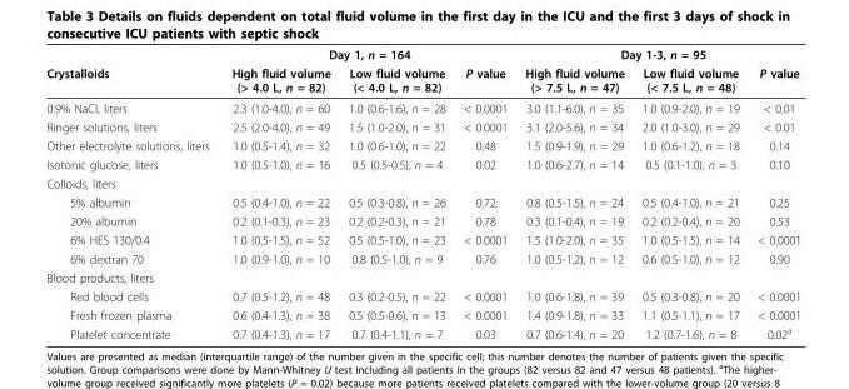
<table><thead><tr><td rowspan="2">Crystalloids</td><td colspan="3">Day 1, n = 164</td><td colspan="3">Day 1-3, n = 95</td></tr><tr><td>High fluid volume (&gt; 4.0 L, n = 82)</td><td>Low fluid volume (&lt; 4.0 L, n = 82)</td><td>P value</td><td>High fluid volume (&gt; 7.5 L, n = 47)</td><td>Low fluid volume (&lt; 7.5 L, n = 48)</td><td>P value</td></tr></thead><tbody><tr><td>0.9% NaCl, liters</td><td>2.3 (1.0-4.0), n = 60</td><td>1.0 (0.6-1.6), n = 28</td><td>&lt; 0.0001</td><td>3.0 (1.1-6.0), n = 35</td><td>1.0 (0.9-2.0), n = 19</td><td>&lt; 0.01</td></tr><tr><td>Ringer solutions, liters</td><td>2.5 (2.0-4.0), n = 49</td><td>1.5 (1.0-2.0), n = 31</td><td>&lt; 0.0001</td><td>3.1 (2.0-5.6), n = 34</td><td>2.0 (1.0-3.0), n = 29</td><td>&lt; 0.01</td></tr><tr><td>Other electrolyte solutions, liters</td><td>1.0 (0.5-1.4), n = 32</td><td>1.0 (0.6-1.0), n = 22</td><td>0.48</td><td>1.5 (0.9-1.9), n = 29</td><td>1.0 (0.6-1.2), n = 18</td><td>0.14</td></tr><tr><td>Isotonic glucose, liters</td><td>1.0 (0.5-1.0), n = 16</td><td>0.5 (0.5-0.5), n = 4</td><td>0.02</td><td>1.0 (0.6-2.7), n = 14</td><td>0.5 (0.1-1.0), n = 3</td><td>0.10</td></tr><tr><td colspan="7">Colloids, liters</td></tr><tr><td>5% albumin</td><td>0.5 (0.4-1.0), n = 22</td><td>0.5 (0.3-0.8), n = 26</td><td>0.72</td><td>0.8 (0.5-1.5), n = 24</td><td>0.5 (0.4-1.0), n = 21</td><td>0.25</td></tr><tr><td>20% albumin</td><td>0.2 (0.1-0.3), n = 23</td><td>0.2 (0.2-0.3), n = 21</td><td>0.78</td><td>0.3 (0.1-0.4), n = 19</td><td>0.2 (0.2-0.4), n = 20</td><td>0.53</td></tr><tr><td>6% HES 130/0.4</td><td>1.0 (0.5-1.5), n = 52</td><td>0.5 (0.5-1.0), n = 23</td><td>&lt; 0.0001</td><td>1.5 (1.0-2.0), n = 35</td><td>1.0 (0.5-1.5), n = 14</td><td>&lt; 0.0001</td></tr><tr><td>6% dextran 70</td><td>1.0 (0.9-1.0), n = 10</td><td>0.8 (0.5-1.0), n = 9</td><td>0.76</td><td>1.0 (0.5-1.2), n = 12</td><td>0.6 (0.5-1.0), n = 12</td><td>0.90</td></tr><tr><td colspan="7">Blood products, liters</td></tr><tr><td>Red blood cells</td><td>0.7 (0.5-1.2), n = 48</td><td>0.3 (0.2-0.5), n = 22</td><td>&lt; 0.0001</td><td>1.0 (0.6-1.8), n = 39</td><td>0.5 (0.3-0.8), n = 20</td><td>&lt; 0.0001</td></tr><tr><td>Fresh frozen plasma</td><td>0.6 (0.4-1.3), n = 38</td><td>0.5 (0.5-0.6), n = 13</td><td>&lt; 0.0001</td><td>1.4 (0.9-1.8), n = 33</td><td>1.1 (0.5-1.1), n = 17</td><td>&lt; 0.0001</td></tr><tr><td>Platelet concentrate</td><td>0.7 (0.4-1.3), n = 17</td><td>0.7 (0.4-1.1), n = 7</td><td>0.03</td><td>0.7 (0.6-1.4), n = 20</td><td>1.2 (0.7-1.6), n = 8</td><td>0.02<sup>a</sup></td></tr></tbody></table>